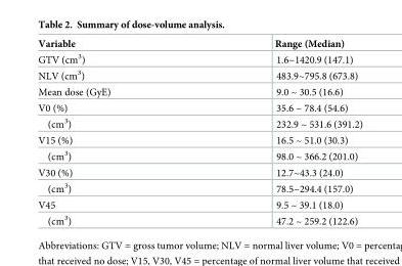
<table><thead><tr><td>Variable</td><td>Range (Median)</td></tr></thead><tbody><tr><td>GTV (cm<sup>3</sup>)</td><td>1.6~1420.9 (147.1)</td></tr><tr><td>NLV (cm<sup>3</sup>)</td><td>483.9~795.8 (673.8)</td></tr><tr><td>Mean dose (GyE)</td><td>9.0 ~ 30.5 (16.6)</td></tr><tr><td>V0 (%)</td><td>35.6 ~ 78.4 (54.6)</td></tr><tr><td>(cm<sup>3</sup>)</td><td>232.9 ~ 531.6 (391.2)</td></tr><tr><td>V15 (%)</td><td>16.5 ~ 51.0 (30.3)</td></tr><tr><td>(cm<sup>3</sup>)</td><td>98.0 ~ 366.2 (201.0)</td></tr><tr><td>V30 (%)</td><td>12.7~43.3 (24.0)</td></tr><tr><td>(cm<sup>3</sup>)</td><td>78.5~294.4 (157.0)</td></tr><tr><td>V45</td><td>9.5 ~ 39.1 (18.0)</td></tr><tr><td>(cm<sup>3</sup>)</td><td>47.2 ~ 259.2 (122.6)</td></tr></tbody></table>